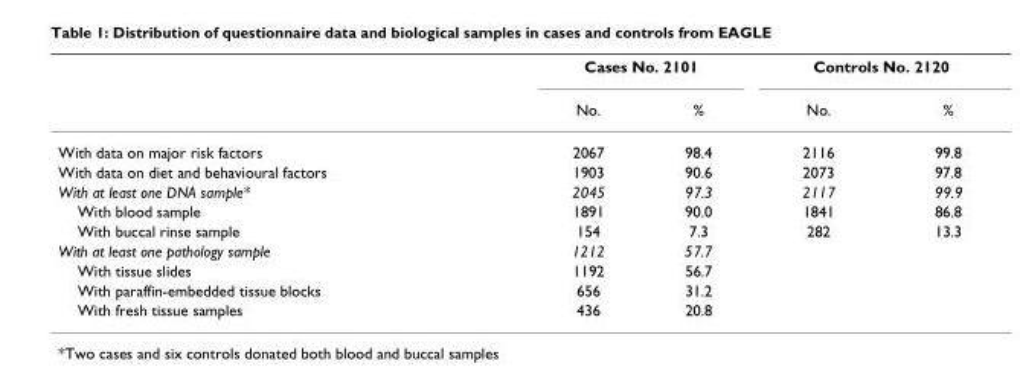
<table><thead><tr><td rowspan="2"></td><td colspan="2">Cases No. 2101</td><td colspan="2">Controls No. 2120</td></tr><tr><td>No.</td><td>%</td><td>No.</td><td>%</td></tr></thead><tbody><tr><td>With data on major risk factors</td><td>2067</td><td>98.4</td><td>2116</td><td>99.8</td></tr><tr><td>With data on diet and behavioural factors</td><td>1903</td><td>90.6</td><td>2073</td><td>97.8</td></tr><tr><td>With at least one DNA sample*</td><td>2045</td><td>97.3</td><td>2117</td><td>99.9</td></tr><tr><td>With blood sample</td><td>1891</td><td>90.0</td><td>1841</td><td>86.8</td></tr><tr><td>With buccal rinse sample</td><td>154</td><td>7.3</td><td>282</td><td>13.3</td></tr><tr><td>With at least one pathology sample</td><td>1212</td><td>57.7</td><td></td><td></td></tr><tr><td>With tissue slides</td><td>1192</td><td>56.7</td><td></td><td></td></tr><tr><td>With paraffin-embedded tissue blocks</td><td>656</td><td>31.2</td><td></td><td></td></tr><tr><td>With fresh tissue samples</td><td>436</td><td>20.8</td><td></td><td></td></tr></tbody></table>